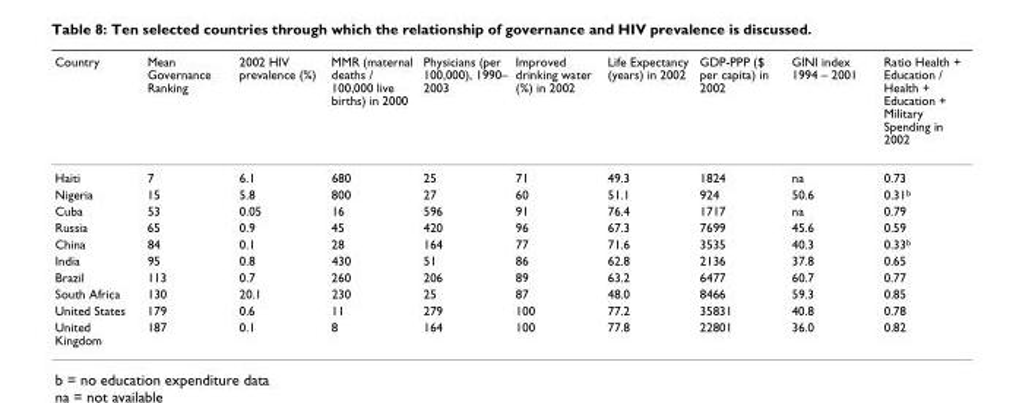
<table><thead><tr><td>Country</td><td>Mean Governance Ranking</td><td>2002 HIV prevalence (%)</td><td>MMR (maternal deaths / 100,000 live births) in 2000</td><td>Physicians (per 100,000), 1990– 2003</td><td>Improved drinking water (%) in 2002</td><td>Life Expectancy (years) in 2002</td><td>GDP-PPP ($ per capita) in 2002</td><td>GINI index 1994 – 2001</td><td>Ratio Health + Education / Health + Education + Military Spending in 2002</td></tr></thead><tbody><tr><td>Haiti</td><td>7</td><td>6.1</td><td>680</td><td>25</td><td>71</td><td>49.3</td><td>1824</td><td>na</td><td>0.73</td></tr><tr><td>Nigeria</td><td>15</td><td>5.8</td><td>800</td><td>27</td><td>60</td><td>51.1</td><td>924</td><td>50.6</td><td>0.31<sup>b</sup></td></tr><tr><td>Cuba</td><td>53</td><td>0.05</td><td>16</td><td>596</td><td>91</td><td>76.4</td><td>1717</td><td>na</td><td>0.79</td></tr><tr><td>Russia</td><td>65</td><td>0.9</td><td>45</td><td>420</td><td>96</td><td>67.3</td><td>7699</td><td>45.6</td><td>0.59</td></tr><tr><td>China</td><td>84</td><td>0.1</td><td>28</td><td>164</td><td>77</td><td>71.6</td><td>3535</td><td>40.3</td><td>0.33<sup>b</sup></td></tr><tr><td>India</td><td>95</td><td>0.8</td><td>430</td><td>51</td><td>86</td><td>62.8</td><td>2136</td><td>37.8</td><td>0.65</td></tr><tr><td>Brazil</td><td>113</td><td>0.7</td><td>260</td><td>206</td><td>89</td><td>63.2</td><td>6477</td><td>60.7</td><td>0.77</td></tr><tr><td>South Africa</td><td>130</td><td>20.1</td><td>230</td><td>25</td><td>87</td><td>48.0</td><td>8466</td><td>59.3</td><td>0.85</td></tr><tr><td>United States</td><td>179</td><td>0.6</td><td>11</td><td>279</td><td>100</td><td>77.2</td><td>35831</td><td>40.8</td><td>0.78</td></tr><tr><td>United Kingdom</td><td>187</td><td>0.1</td><td>8</td><td>164</td><td>100</td><td>77.8</td><td>22801</td><td>36.0</td><td>0.82</td></tr></tbody></table>